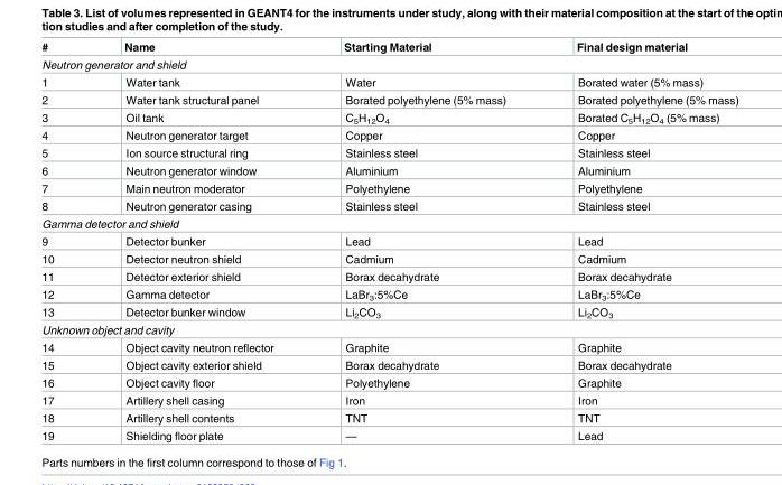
<table><thead><tr><td>#</td><td>Name</td><td>Starting Material</td><td>Final design material</td></tr></thead><tbody><tr><td colspan="4">Neutron generator and shield</td></tr><tr><td>1</td><td>Water tank</td><td>Water</td><td>Borated water (5% mass)</td></tr><tr><td>2</td><td>Water tank structural panel</td><td>Borated polyethylene (5% mass)</td><td>Borated polyethylene (5% mass)</td></tr><tr><td>3</td><td>Oil tank</td><td>C<sub>5</sub>H<sub>12</sub>O<sub>4</sub></td><td>Borated C<sub>5</sub>H<sub>12</sub>O<sub>4</sub> (5% mass)</td></tr><tr><td>4</td><td>Neutron generator target</td><td>Copper</td><td>Copper</td></tr><tr><td>5</td><td>Ion source structural ring</td><td>Stainless steel</td><td>Stainless steel</td></tr><tr><td>6</td><td>Neutron generator window</td><td>Aluminium</td><td>Aluminium</td></tr><tr><td>7</td><td>Main neutron moderator</td><td>Polyethylene</td><td>Polyethylene</td></tr><tr><td>8</td><td>Neutron generator casing</td><td>Stainless steel</td><td>Stainless steel</td></tr><tr><td colspan="4">Gamma detector and shield</td></tr><tr><td>9</td><td>Detector bunker</td><td>Lead</td><td>Lead</td></tr><tr><td>10</td><td>Detector neutron shield</td><td>Cadmium</td><td>Cadmium</td></tr><tr><td>11</td><td>Detector exterior shield</td><td>Borax decahydrate</td><td>Borax decahydrate</td></tr><tr><td>12</td><td>Gamma detector</td><td>LaBr<sub>3</sub>:5%Ce</td><td>LaBr<sub>3</sub>:5%Ce</td></tr><tr><td>13</td><td>Detector bunker window</td><td>Li<sub>2</sub>CO<sub>3</sub></td><td>Li<sub>2</sub>CO<sub>3</sub></td></tr><tr><td colspan="4">Unknown object and cavity</td></tr><tr><td>14</td><td>Object cavity neutron reflector</td><td>Graphite</td><td>Graphite</td></tr><tr><td>15</td><td>Object cavity exterior shield</td><td>Borax decahydrate</td><td>Borax decahydrate</td></tr><tr><td>16</td><td>Object cavity floor</td><td>Polyethylene</td><td>Graphite</td></tr><tr><td>17</td><td>Artillery shell casing</td><td>Iron</td><td>Iron</td></tr><tr><td>18</td><td>Artillery shell contents</td><td>TNT</td><td>TNT</td></tr><tr><td>19</td><td>Shielding floor plate</td><td>—</td><td>Lead</td></tr></tbody></table>